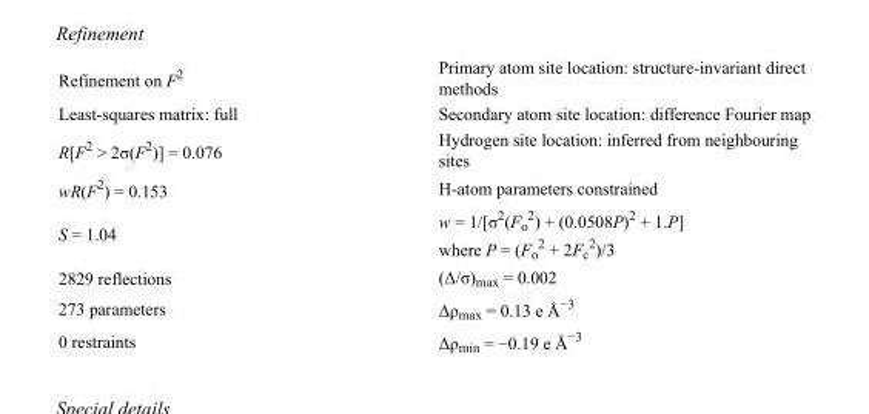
<table><tbody><tr><td>Refinement on F<sup>2</sup></td><td>Primary atom site location: structure-invariant direct methods</td></tr><tr><td>Least-squares matrix: full</td><td>Secondary atom site location: difference Fourier map</td></tr><tr><td>R[F<sup>2</sup> &gt; 2σ(F<sup>2</sup>)] = 0.076</td><td>Hydrogen site location: inferred from neighbouring sites</td></tr><tr><td>wR(F<sup>2</sup>) = 0.153</td><td>H-atom parameters constrained</td></tr><tr><td>S = 1.04</td><td>w = 1/[σ<sup>2</sup>(F<sub>o</sub> <sup>2</sup>) + (0.0508P)<sup>2</sup> + 1.P] where P = (F<sub>o</sub> <sup>2</sup> + 2F<sub>c</sub> <sup>2</sup>)/3</td></tr><tr><td>2829 reflections</td><td>(Δ/σ)<sub>max</sub> = 0.002</td></tr><tr><td>273 parameters</td><td>Δρ<sub>max</sub> = 0.13 e Å<sup>−3</sup></td></tr><tr><td>0 restraints</td><td>Δρ<sub>min</sub> = −0.19 e Å<sup>−3</sup></td></tr></tbody></table>